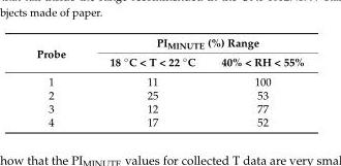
<table><thead><tr><td rowspan="2">Probe</td><td colspan="2">PI<sub>MINUTE</sub> (%) Range</td></tr><tr><td>18 ◦C &lt; T &lt; 22 ◦C</td><td>40% &lt; RH &lt; 55%</td></tr></thead><tbody><tr><td>1</td><td>11</td><td>100</td></tr><tr><td>2</td><td>25</td><td>53</td></tr><tr><td>3</td><td>12</td><td>77</td></tr><tr><td>4</td><td>17</td><td>52</td></tr></tbody></table>